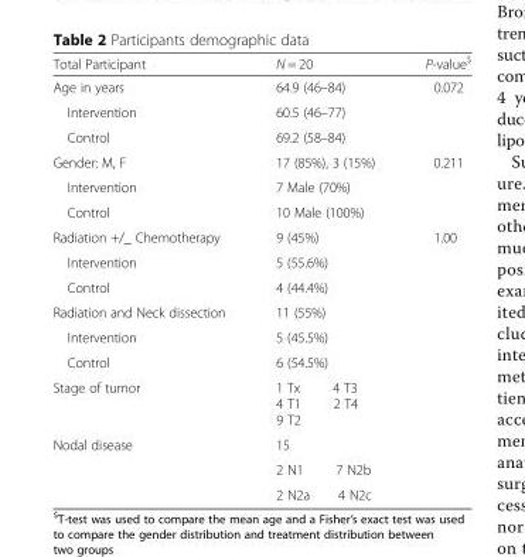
<table><thead><tr><td>Total Participant</td><td>N = 20</td><td>P-value<sup>$</sup></td></tr></thead><tbody><tr><td>Age in years</td><td>64.9 (46–84)</td><td>0.072</td></tr><tr><td>Intervention</td><td>60.5 (46–77)</td><td></td></tr><tr><td>Control</td><td>69.2 (58–84)</td><td></td></tr><tr><td>Gender: M, F</td><td>17 (85%), 3 (15%)</td><td>0.211</td></tr><tr><td>Intervention</td><td>7 Male (70%)</td><td></td></tr><tr><td>Control</td><td>10 Male (100%)</td><td></td></tr><tr><td>Radiation +/_ Chemotherapy</td><td>9 (45%)</td><td>1.00</td></tr><tr><td>Intervention</td><td>5 (55.6%)</td><td></td></tr><tr><td>Control</td><td>4 (44.4%)</td><td></td></tr><tr><td>Radiation and Neck dissection</td><td>11 (55%)</td><td></td></tr><tr><td>Intervention</td><td>5 (45.5%)</td><td></td></tr><tr><td>Control</td><td>6 (54.5%)</td><td></td></tr><tr><td>Stage of tumor</td><td>1 Tx 4 T3 4 T1 2 T4 9 T2</td><td></td></tr><tr><td rowspan="3">Nodal disease</td><td>15</td><td></td></tr><tr><td>2 N1 7 N2b</td><td></td></tr><tr><td>2 N2a 4 N2c</td><td></td></tr></tbody></table>